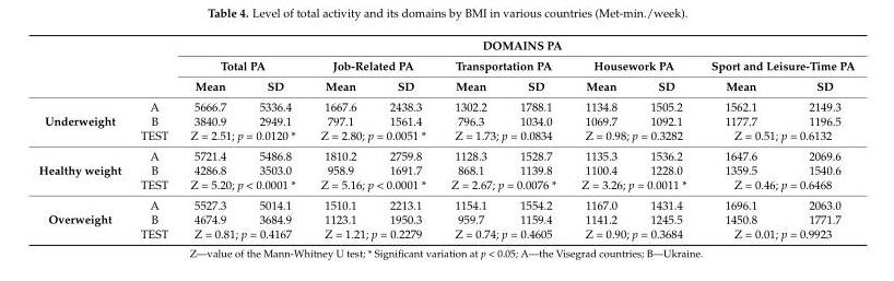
<table><thead><tr><td rowspan="3"></td><td rowspan="3"></td><td colspan="10">DOMAINS PA</td></tr><tr><td colspan="2">Total PA</td><td colspan="2">Job-Related PA</td><td colspan="2">Transportation PA</td><td colspan="2">Housework PA</td><td colspan="2">Sport and Leisure-Time PA</td></tr><tr><td>Mean</td><td>SD</td><td>Mean</td><td>SD</td><td>Mean</td><td>SD</td><td>Mean</td><td>SD</td><td>Mean</td><td>SD</td></tr></thead><tbody><tr><td rowspan="3">Underweight</td><td>A</td><td>5666.7</td><td>5336.4</td><td>1667.6</td><td>2438.3</td><td>1302.2</td><td>1788.1</td><td>1134.8</td><td>1505.2</td><td>1562.1</td><td>2149.3</td></tr><tr><td>B</td><td>3840.9</td><td>2949.1</td><td>797.1</td><td>1561.4</td><td>796.3</td><td>1034.0</td><td>1069.7</td><td>1092.1</td><td>1177.7</td><td>1196.5</td></tr><tr><td>TEST</td><td colspan="2">Z = 2.51; p = 0.0120 *</td><td colspan="2">Z = 2.80; p = 0.0051 *</td><td colspan="2">Z = 1.73; p = 0.0834</td><td colspan="2">Z = 0.98; p = 0.3282</td><td colspan="2">Z = 0.51; p = 0.6132</td></tr><tr><td rowspan="3">Healthy weight</td><td>A</td><td>5721.4</td><td>5486.8</td><td>1810.2</td><td>2759.8</td><td>1128.3</td><td>1528.7</td><td>1135.3</td><td>1536.2</td><td>1647.6</td><td>2069.6</td></tr><tr><td>B</td><td>4286.8</td><td>3503.0</td><td>958.9</td><td>1691.7</td><td>868.1</td><td>1139.8</td><td>1100.4</td><td>1228.0</td><td>1359.5</td><td>1540.6</td></tr><tr><td>TEST</td><td colspan="2">Z = 5.20; p &lt; 0.0001 *</td><td colspan="2">Z = 5.16; p &lt; 0.0001 *</td><td colspan="2">Z = 2.67; p = 0.0076 *</td><td colspan="2">Z = 3.26; p = 0.0011 *</td><td colspan="2">Z = 0.46; p = 0.6468</td></tr><tr><td rowspan="3">Overweight</td><td>A</td><td>5527.3</td><td>5014.1</td><td>1510.1</td><td>2213.1</td><td>1154.1</td><td>1554.2</td><td>1167.0</td><td>1431.4</td><td>1696.1</td><td>2063.0</td></tr><tr><td>B</td><td>4674.9</td><td>3684.9</td><td>1123.1</td><td>1950.3</td><td>959.7</td><td>1159.4</td><td>1141.2</td><td>1245.5</td><td>1450.8</td><td>1771.7</td></tr><tr><td>TEST</td><td colspan="2">Z = 0.81; p = 0.4167</td><td colspan="2">Z = 1.21; p = 0.2279</td><td colspan="2">Z = 0.74; p = 0.4605</td><td colspan="2">Z = 0.90; p = 0.3684</td><td colspan="2">Z = 0.01; p = 0.9923</td></tr></tbody></table>